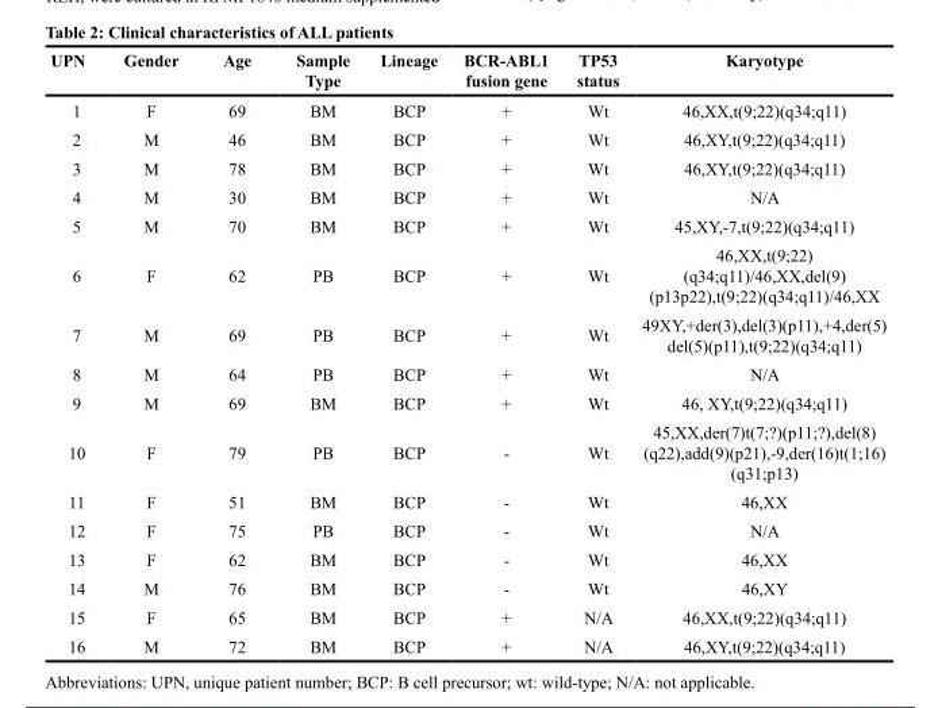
<table><thead><tr><td>UPN</td><td>Gender</td><td>Age</td><td>Sample Type</td><td>Lineage</td><td>BCR-ABL1 fusion gene</td><td>TP53 status</td><td>Karyotype</td></tr></thead><tbody><tr><td>1</td><td>F</td><td>69</td><td>BM</td><td>BCP</td><td>+</td><td>Wt</td><td>46,XX,t(9;22)(q34;q11)</td></tr><tr><td>2</td><td>M</td><td>46</td><td>BM</td><td>BCP</td><td>+</td><td>Wt</td><td>46,XY,t(9;22)(q34;q11)</td></tr><tr><td>3</td><td>M</td><td>78</td><td>BM</td><td>BCP</td><td>+</td><td>Wt</td><td>46,XY,t(9;22)(q34;q11)</td></tr><tr><td>4</td><td>M</td><td>30</td><td>BM</td><td>BCP</td><td>+</td><td>Wt</td><td>N/A</td></tr><tr><td>5</td><td>M</td><td>70</td><td>BM</td><td>BCP</td><td>+</td><td>Wt</td><td>45,XY,-7,t(9;22)(q34;q11)</td></tr><tr><td>6</td><td>F</td><td>62</td><td>PB</td><td>BCP</td><td>+</td><td>Wt</td><td>46,XX,t(9;22) (q34;q11)/46,XX,del(9) (p13p22),t(9;22)(q34;q11)/46,XX</td></tr><tr><td>7</td><td>M</td><td>69</td><td>PB</td><td>BCP</td><td>+</td><td>Wt</td><td>49XY,+der(3),del(3)(p11),+4,der(5) del(5)(p11),t(9;22)(q34;q11)</td></tr><tr><td>8</td><td>M</td><td>64</td><td>PB</td><td>BCP</td><td>+</td><td>Wt</td><td>N/A</td></tr><tr><td>9</td><td>M</td><td>69</td><td>BM</td><td>BCP</td><td>+</td><td>Wt</td><td>46, XY,t(9;22)(q34;q11)</td></tr><tr><td>10</td><td>F</td><td>79</td><td>PB</td><td>BCP</td><td>-</td><td>Wt</td><td>45,XX,der(7)t(7;?)(p11;?),del(8) (q22),add(9)(p21),-9,der(16)t(1;16) (q31;p13)</td></tr><tr><td>11</td><td>F</td><td>51</td><td>BM</td><td>BCP</td><td>-</td><td>Wt</td><td>46,XX</td></tr><tr><td>12</td><td>F</td><td>75</td><td>PB</td><td>BCP</td><td>-</td><td>Wt</td><td>N/A</td></tr><tr><td>13</td><td>F</td><td>62</td><td>BM</td><td>BCP</td><td>-</td><td>Wt</td><td>46,XX</td></tr><tr><td>14</td><td>M</td><td>76</td><td>BM</td><td>BCP</td><td>-</td><td>Wt</td><td>46,XY</td></tr><tr><td>15</td><td>F</td><td>65</td><td>BM</td><td>BCP</td><td>+</td><td>N/A</td><td>46,XX,t(9;22)(q34;q11)</td></tr><tr><td>16</td><td>M</td><td>72</td><td>BM</td><td>BCP</td><td>+</td><td>N/A</td><td>46,XY,t(9;22)(q34;q11)</td></tr></tbody></table>